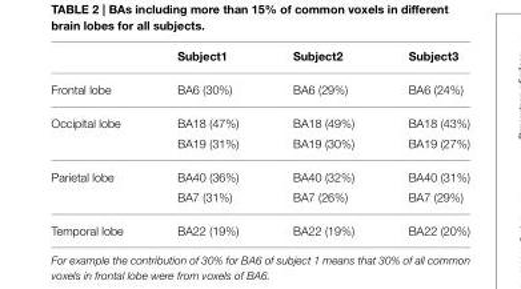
<table><thead><tr><td></td><td>Subject1</td><td>Subject2</td><td>Subject3</td></tr></thead><tbody><tr><td>Frontal lobe</td><td>BA6 (30%)</td><td>BA6 (29%)</td><td>BA6 (24%)</td></tr><tr><td rowspan="2">Occipital lobe</td><td>BA18 (47%)</td><td>BA18 (49%)</td><td>BA18 (43%)</td></tr><tr><td>BA19 (31%)</td><td>BA19 (30%)</td><td>BA19 (27%)</td></tr><tr><td rowspan="2">Parietal lobe</td><td>BA40 (36%)</td><td>BA40 (32%)</td><td>BA40 (31%)</td></tr><tr><td>BA7 (31%)</td><td>BA7 (26%)</td><td>BA7 (29%)</td></tr><tr><td>Temporal lobe</td><td>BA22 (19%)</td><td>BA22 (19%)</td><td>BA22 (20%)</td></tr></tbody></table>